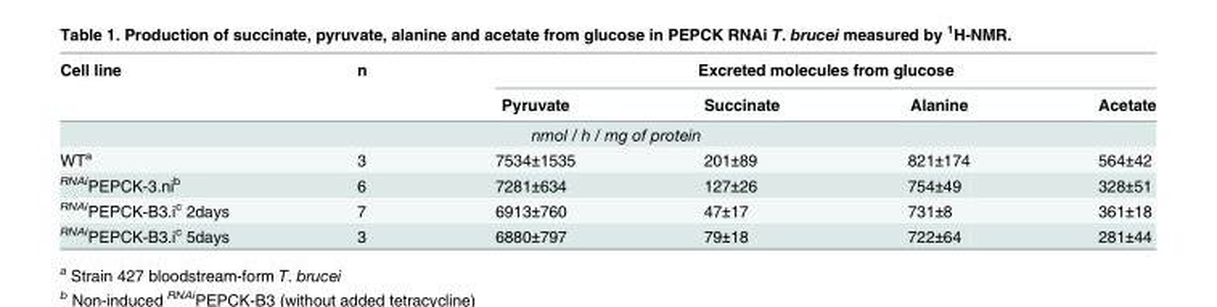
<table><thead><tr><td rowspan="2">Cell line</td><td rowspan="2">n</td><td colspan="4">Excreted molecules from glucose</td></tr><tr><td>Pyruvate</td><td>Succinate</td><td>Alanine</td><td>Acetate</td></tr></thead><tbody><tr><td colspan="6">nmol / h / mg of protein</td></tr><tr><td>WT<sup>a</sup></td><td>3</td><td>7534±1535</td><td>201±89</td><td>821±174</td><td>564±42</td></tr><tr><td><sup>RNAi</sup>PEPCK-3.ni<sup>b</sup></td><td>6</td><td>7281±634</td><td>127±26</td><td>754±49</td><td>328±51</td></tr><tr><td><sup>RNAi</sup>PEPCK-B3.i<sup>c</sup> 2days</td><td>7</td><td>6913±760</td><td>47±17</td><td>731±8</td><td>361±18</td></tr><tr><td><sup>RNAi</sup>PEPCK-B3.i<sup>c</sup> 5days</td><td>3</td><td>6880±797</td><td>79±18</td><td>722±64</td><td>281±44</td></tr></tbody></table>